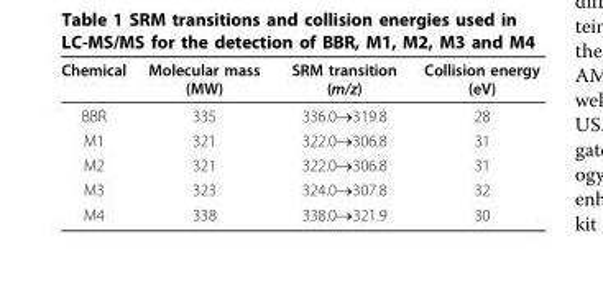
<table><thead><tr><td>Chemical</td><td>Molecular mass (MW)</td><td>SRM transition (m/z)</td><td>Collision energy (eV)</td></tr></thead><tbody><tr><td>BBR</td><td>335</td><td>336.0→319.8</td><td>28</td></tr><tr><td>M1</td><td>321</td><td>322.0→306.8</td><td>31</td></tr><tr><td>M2</td><td>321</td><td>322.0→306.8</td><td>31</td></tr><tr><td>M3</td><td>323</td><td>324.0→307.8</td><td>32</td></tr><tr><td>M4</td><td>338</td><td>338.0→321.9</td><td>30</td></tr></tbody></table>